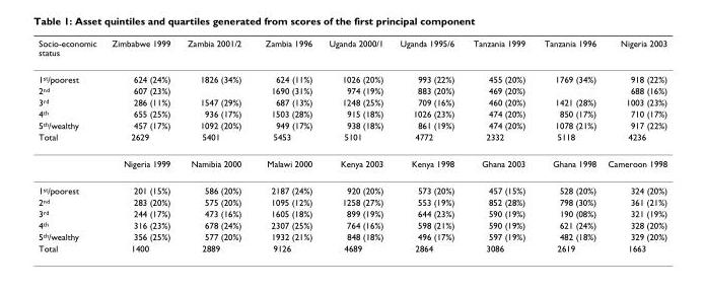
<table><thead><tr><td>Socio-economic status</td><td>Zimbabwe 1999</td><td>Zambia 2001/2</td><td>Zambia 1996</td><td>Uganda 2000/1</td><td>Uganda 1995/6</td><td>Tanzania 1999</td><td>Tanzania 1996</td><td>Nigeria 2003</td></tr></thead><tbody><tr><td>1st/poorest</td><td>624 (24%)</td><td>1826 (34%)</td><td>624 (11%)</td><td>1026 (20%)</td><td>993 (22%)</td><td>455 (20%)</td><td>1769 (34%)</td><td>918 (22%)</td></tr><tr><td>2nd</td><td>607 (23%)</td><td></td><td>1690 (31%)</td><td>974 (19%)</td><td>883 (20%)</td><td>469 (20%)</td><td></td><td>688 (16%)</td></tr><tr><td>3rd</td><td>286 (11%)</td><td>1547 (29%)</td><td>687 (13%)</td><td>1248 (25%)</td><td>709 (16%)</td><td>460 (20%)</td><td>1421 (28%)</td><td>1003 (23%)</td></tr><tr><td>4th</td><td>655 (25%)</td><td>936 (17%)</td><td>1503 (28%)</td><td>915 (18%)</td><td>1026 (23%)</td><td>474 (20%)</td><td>850 (17%)</td><td>710 (17%)</td></tr><tr><td>5th/wealthy</td><td>457 (17%)</td><td>1092 (20%)</td><td>949 (17%)</td><td>938 (18%)</td><td>861 (19%)</td><td>474 (20%)</td><td>1078 (21%)</td><td>917 (22%)</td></tr><tr><td rowspan="2">Total</td><td>2629</td><td>5401</td><td>5453</td><td>5101</td><td>4772</td><td>2332</td><td>5118</td><td>4236</td></tr><tr><td>Nigeria 1999</td><td>Namibia 2000</td><td>Malawi 2000</td><td>Kenya 2003</td><td>Kenya 1998</td><td>Ghana 2003</td><td>Ghana 1998</td><td>Cameroon 1998</td></tr><tr><td>1st/poorest</td><td>201 (15%)</td><td>586 (20%)</td><td>2187 (24%)</td><td>920 (20%)</td><td>573 (20%)</td><td>457 (15%)</td><td>528 (20%)</td><td>324 (20%)</td></tr><tr><td>2nd</td><td>283 (20%)</td><td>575 (20%)</td><td>1095 (12%)</td><td>1258 (27%)</td><td>553 (19%)</td><td>852 (28%)</td><td>798 (30%)</td><td>361 (21%)</td></tr><tr><td>3rd</td><td>244 (17%)</td><td>473 (16%)</td><td>1605 (18%)</td><td>899 (19%)</td><td>644 (23%)</td><td>590 (19%)</td><td>190 (08%)</td><td>321 (19%)</td></tr><tr><td>4th</td><td>316 (23%)</td><td>678 (24%)</td><td>2307 (25%)</td><td>764 (16%)</td><td>598 (21%)</td><td>590 (19%)</td><td>621 (24%)</td><td>328 (20%)</td></tr><tr><td>5th/wealthy</td><td>356 (25%)</td><td>577 (20%)</td><td>1932 (21%)</td><td>848 (18%)</td><td>496 (17%)</td><td>597 (19%)</td><td>482 (18%)</td><td>329 (20%)</td></tr><tr><td>Total</td><td>1400</td><td>2889</td><td>9126</td><td>4689</td><td>2864</td><td>3086</td><td>2619</td><td>1663</td></tr></tbody></table>